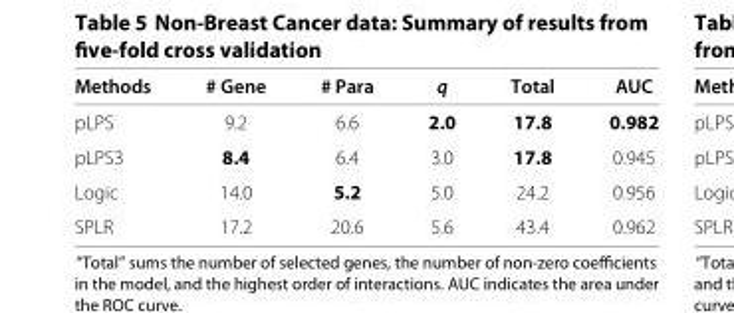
<table><thead><tr><td>Methods</td><td># Gene</td><td># Para</td><td>q</td><td>Total</td><td>AUC</td></tr></thead><tbody><tr><td>pLPS</td><td>9.2</td><td>6.6</td><td>2.0</td><td>17.8</td><td>0.982</td></tr><tr><td>pLPS3</td><td>8.4</td><td>6.4</td><td>3.0</td><td>17.8</td><td>0.945</td></tr><tr><td>Logic</td><td>14.0</td><td>5.2</td><td>5.0</td><td>24.2</td><td>0.956</td></tr><tr><td>SPLR</td><td>17.2</td><td>20.6</td><td>5.6</td><td>43.4</td><td>0.962</td></tr></tbody></table>